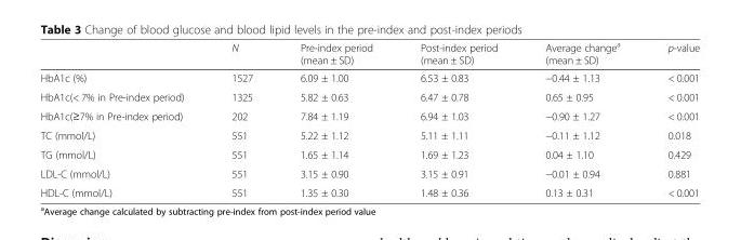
<table><thead><tr><td></td><td>N</td><td>Pre-index period (mean ± SD)</td><td>Post-index period (mean ± SD)</td><td>Average change<sup>a</sup> (mean ± SD)</td><td>p-value</td></tr></thead><tbody><tr><td>HbA1c (%)</td><td>1527</td><td>6.09 ± 1.00</td><td>6.53 ± 0.83</td><td>−0.44 ± 1.13</td><td>&lt; 0.001</td></tr><tr><td>HbA1c(&lt; 7% in Pre-index period)</td><td>1325</td><td>5.82 ± 0.63</td><td>6.47 ± 0.78</td><td>0.65 ± 0.95</td><td>&lt; 0.001</td></tr><tr><td>HbA1c(≥7% in Pre-index period)</td><td>202</td><td>7.84 ± 1.19</td><td>6.94 ± 1.03</td><td>−0.90 ± 1.27</td><td>&lt; 0.001</td></tr><tr><td>TC (mmol/L)</td><td>551</td><td>5.22 ± 1.12</td><td>5.11 ± 1.11</td><td>−0.11 ± 1.12</td><td>0.018</td></tr><tr><td>TG (mmol/L)</td><td>551</td><td>1.65 ± 1.14</td><td>1.69 ± 1.23</td><td>0.04 ± 1.10</td><td>0.429</td></tr><tr><td>LDL-C (mmol/L)</td><td>551</td><td>3.15 ± 0.90</td><td>3.15 ± 0.91</td><td>−0.01 ± 0.94</td><td>0.881</td></tr><tr><td>HDL-C (mmol/L)</td><td>551</td><td>1.35 ± 0.30</td><td>1.48 ± 0.36</td><td>0.13 ± 0.31</td><td>&lt; 0.001</td></tr></tbody></table>